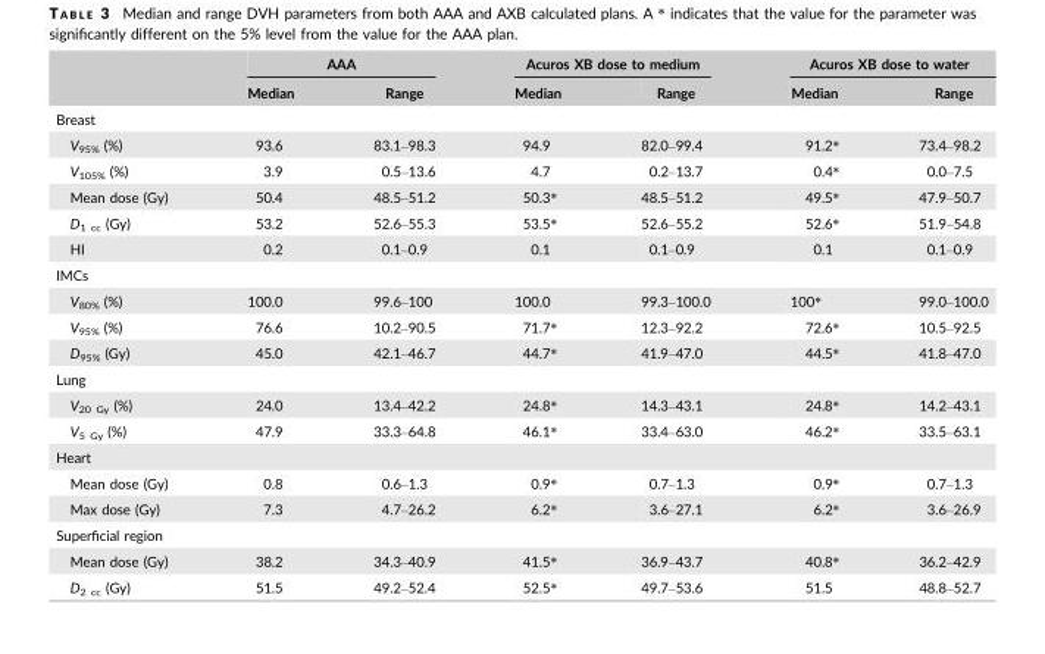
<table><thead><tr><td rowspan="2"></td><td colspan="2">AAA</td><td colspan="2">Acuros XB dose to medium</td><td colspan="2">Acuros XB dose to water</td></tr><tr><td>Median</td><td>Range</td><td>Median</td><td>Range</td><td>Median</td><td>Range</td></tr></thead><tbody><tr><td colspan="7">Breast</td></tr><tr><td>V<sub>95%</sub> (%)</td><td>93.6</td><td>83.1–98.3</td><td>94.9</td><td>82.0–99.4</td><td>91.2*</td><td>73.4–98.2</td></tr><tr><td>V<sub>105%</sub> (%)</td><td>3.9</td><td>0.5–13.6</td><td>4.7</td><td>0.2–13.7</td><td>0.4*</td><td>0.0–7.5</td></tr><tr><td>Mean dose (Gy)</td><td>50.4</td><td>48.5–51.2</td><td>50.3*</td><td>48.5–51.2</td><td>49.5*</td><td>47.9–50.7</td></tr><tr><td>D<sub>1 cc</sub> (Gy)</td><td>53.2</td><td>52.6–55.3</td><td>53.5*</td><td>52.6–55.2</td><td>52.6*</td><td>51.9–54.8</td></tr><tr><td>HI</td><td>0.2</td><td>0.1–0.9</td><td>0.1</td><td>0.1–0.9</td><td>0.1</td><td>0.1–0.9</td></tr><tr><td colspan="7">IMCs</td></tr><tr><td>V<sub>80%</sub> (%)</td><td>100.0</td><td>99.6–100</td><td>100.0</td><td>99.3–100.0</td><td>100*</td><td>99.0–100.0</td></tr><tr><td>V<sub>95%</sub> (%)</td><td>76.6</td><td>10.2–90.5</td><td>71.7*</td><td>12.3–92.2</td><td>72.6*</td><td>10.5–92.5</td></tr><tr><td>D<sub>95%</sub> (Gy)</td><td>45.0</td><td>42.1–46.7</td><td>44.7*</td><td>41.9–47.0</td><td>44.5*</td><td>41.8–47.0</td></tr><tr><td colspan="7">Lung</td></tr><tr><td>V<sub>20 Gy</sub> (%)</td><td>24.0</td><td>13.4–42.2</td><td>24.8*</td><td>14.3–43.1</td><td>24.8*</td><td>14.2–43.1</td></tr><tr><td>V<sub>5 Gy</sub> (%)</td><td>47.9</td><td>33.3–64.8</td><td>46.1*</td><td>33.4–63.0</td><td>46.2*</td><td>33.5–63.1</td></tr><tr><td colspan="7">Heart</td></tr><tr><td>Mean dose (Gy)</td><td>0.8</td><td>0.6–1.3</td><td>0.9*</td><td>0.7–1.3</td><td>0.9*</td><td>0.7–1.3</td></tr><tr><td>Max dose (Gy)</td><td>7.3</td><td>4.7–26.2</td><td>6.2*</td><td>3.6–27.1</td><td>6.2*</td><td>3.6–26.9</td></tr><tr><td colspan="7">Superficial region</td></tr><tr><td>Mean dose (Gy)</td><td>38.2</td><td>34.3–40.9</td><td>41.5*</td><td>36.9–43.7</td><td>40.8*</td><td>36.2–42.9</td></tr><tr><td>D<sub>2 cc</sub> (Gy)</td><td>51.5</td><td>49.2–52.4</td><td>52.5*</td><td>49.7–53.6</td><td>51.5</td><td>48.8–52.7</td></tr></tbody></table>